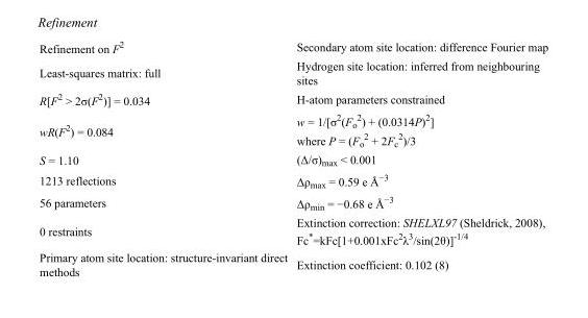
<table><tbody><tr><td>Refinement on F<sup>2</sup></td><td>Secondary atom site location: difference Fourier map</td></tr><tr><td>Least-squares matrix: full</td><td>Hydrogen site location: inferred from neighbouring sites</td></tr><tr><td>R[F<sup>2</sup> &gt; 2σ(F<sup>2</sup>)] = 0.034</td><td>H-atom parameters constrained</td></tr><tr><td>wR(F<sup>2</sup>) = 0.084</td><td>w = 1/[σ<sup>2</sup>(F<sub>o</sub> <sup>2</sup>) + (0.0314P)<sup>2</sup>] where P = (F<sub>o</sub> <sup>2</sup> + 2F<sub>c</sub> <sup>2</sup>)/3</td></tr><tr><td>S = 1.10</td><td>(Δ/σ)<sub>max</sub> &lt; 0.001</td></tr><tr><td>1213 reflections</td><td>Δρ<sub>max</sub> = 0.59 e Å<sup>−3</sup></td></tr><tr><td>56 parameters</td><td>Δρ<sub>min</sub> = −0.68 e Å<sup>−3</sup></td></tr><tr><td>0 restraints</td><td>Extinction correction: SHELXL97 (Sheldrick, 2008), Fc*=kFc[1+0.001xFc<sup>2</sup>λ<sup>3</sup>/sin(2θ)]<sup>-1/4</sup></td></tr><tr><td>Primary atom site location: structure-invariant direct methods</td><td>Extinction coefficient: 0.102 (8)</td></tr></tbody></table>